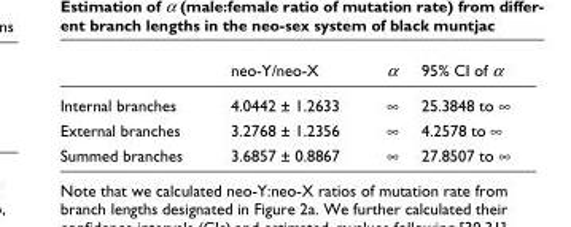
<table><thead><tr><td></td><td>neo-Y/neo-X</td><td>α</td><td>95% CI of α</td></tr></thead><tbody><tr><td>Internal branches</td><td>4.0442 ± 1.2633</td><td>∞</td><td>25.3848 to ∞</td></tr><tr><td>External branches</td><td>3.2768 ± 1.2356</td><td>∞</td><td>4.2578 to ∞</td></tr><tr><td>Summed branches</td><td>3.6857 ± 0.8867</td><td>∞</td><td>27.8507 to ∞</td></tr></tbody></table>